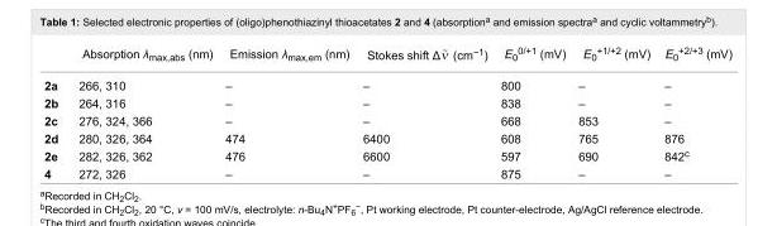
<table><thead><tr><td></td><td>Absorption λ<sub>max,abs</sub> (nm)</td><td>Emission λ<sub>max,em</sub> (nm)</td><td>Stokes shift Δ (cm<sup>−1</sup>)</td><td>E<sub>0</sub><sup>0/+1</sup> (mV)</td><td>E<sub>0</sub><sup>+1/+2</sup> (mV)</td><td>E<sub>0</sub><sup>+2/+3</sup> (mV)</td></tr></thead><tbody><tr><td>2a</td><td>266, 310</td><td>–</td><td>–</td><td>800</td><td>–</td><td>–</td></tr><tr><td>2b</td><td>264, 316</td><td>–</td><td>–</td><td>838</td><td>–</td><td>–</td></tr><tr><td>2c</td><td>276, 324, 366</td><td>–</td><td>–</td><td>668</td><td>853</td><td>–</td></tr><tr><td>2d</td><td>280, 326, 364</td><td>474</td><td>6400</td><td>608</td><td>765</td><td>876</td></tr><tr><td>2e</td><td>282, 326, 362</td><td>476</td><td>6600</td><td>597</td><td>690</td><td>842<sup>c</sup></td></tr><tr><td>4</td><td>272, 326</td><td>–</td><td>–</td><td>875</td><td>–</td><td>–</td></tr></tbody></table>